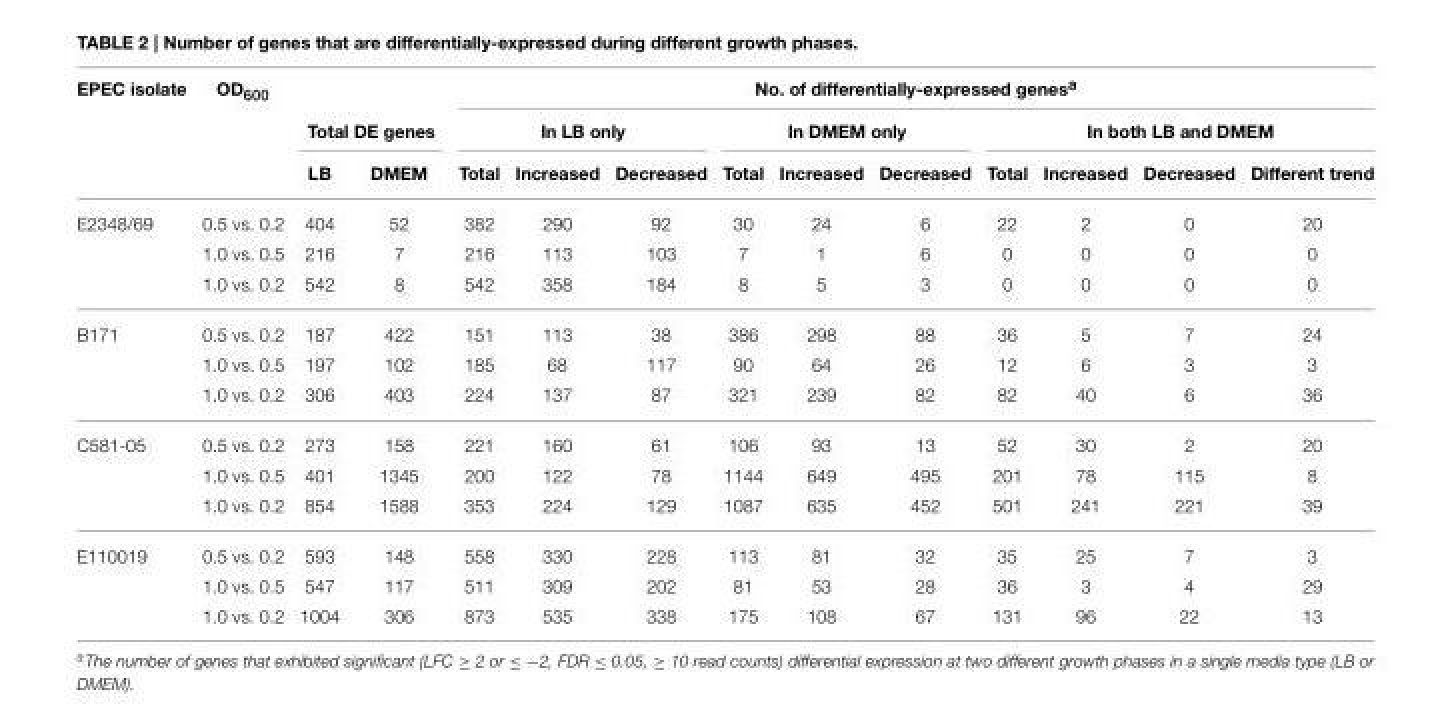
<table><thead><tr><td rowspan="3">EPEC isolate</td><td rowspan="3">OD<sub>600</sub></td><td></td><td></td><td colspan="10">No. of differentially-expressed genes<sup>a</sup></td></tr><tr><td colspan="2">Total DE genes</td><td colspan="3">In LB only</td><td colspan="3">In DMEM only</td><td colspan="4">In both LB and DMEM</td></tr><tr><td>LB</td><td>DMEM</td><td>Total</td><td>Increased</td><td>Decreased</td><td>Total</td><td>Increased</td><td>Decreased</td><td>Total</td><td>Increased</td><td>Decreased</td><td>Different trend</td></tr></thead><tbody><tr><td rowspan="3">E2348/69</td><td>0.5 vs. 0.2</td><td>404</td><td>52</td><td>382</td><td>290</td><td>92</td><td>30</td><td>24</td><td>6</td><td>22</td><td>2</td><td>0</td><td>20</td></tr><tr><td>1.0 vs. 0.5</td><td>216</td><td>7</td><td>216</td><td>113</td><td>103</td><td>7</td><td>1</td><td>6</td><td>0</td><td>0</td><td>0</td><td>0</td></tr><tr><td>1.0 vs. 0.2</td><td>542</td><td>8</td><td>542</td><td>358</td><td>184</td><td>8</td><td>5</td><td>3</td><td>0</td><td>0</td><td>0</td><td>0</td></tr><tr><td rowspan="3">B171</td><td>0.5 vs. 0.2</td><td>187</td><td>422</td><td>151</td><td>113</td><td>38</td><td>386</td><td>298</td><td>88</td><td>36</td><td>5</td><td>7</td><td>24</td></tr><tr><td>1.0 vs. 0.5</td><td>197</td><td>102</td><td>185</td><td>68</td><td>117</td><td>90</td><td>64</td><td>26</td><td>12</td><td>6</td><td>3</td><td>3</td></tr><tr><td>1.0 vs. 0.2</td><td>306</td><td>403</td><td>224</td><td>137</td><td>87</td><td>321</td><td>239</td><td>82</td><td>82</td><td>40</td><td>6</td><td>36</td></tr><tr><td rowspan="3">C581-05</td><td>0.5 vs. 0.2</td><td>273</td><td>158</td><td>221</td><td>160</td><td>61</td><td>106</td><td>93</td><td>13</td><td>52</td><td>30</td><td>2</td><td>20</td></tr><tr><td>1.0 vs. 0.5</td><td>401</td><td>1345</td><td>200</td><td>122</td><td>78</td><td>1144</td><td>649</td><td>495</td><td>201</td><td>78</td><td>115</td><td>8</td></tr><tr><td>1.0 vs. 0.2</td><td>854</td><td>1588</td><td>353</td><td>224</td><td>129</td><td>1087</td><td>635</td><td>452</td><td>501</td><td>241</td><td>221</td><td>39</td></tr><tr><td rowspan="3">E110019</td><td>0.5 vs. 0.2</td><td>593</td><td>148</td><td>558</td><td>330</td><td>228</td><td>113</td><td>81</td><td>32</td><td>35</td><td>25</td><td>7</td><td>3</td></tr><tr><td>1.0 vs. 0.5</td><td>547</td><td>117</td><td>511</td><td>309</td><td>202</td><td>81</td><td>53</td><td>28</td><td>36</td><td>3</td><td>4</td><td>29</td></tr><tr><td>1.0 vs. 0.2</td><td>1004</td><td>306</td><td>873</td><td>535</td><td>338</td><td>175</td><td>108</td><td>67</td><td>131</td><td>96</td><td>22</td><td>13</td></tr></tbody></table>